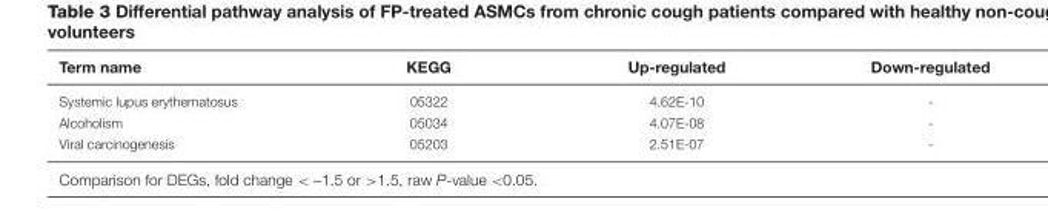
<table><thead><tr><td>Term name</td><td>KEGG</td><td>Up-regulated</td><td>Down-regulated</td></tr></thead><tbody><tr><td>Systemic lupus erythematosus</td><td>05322</td><td>4.62E-10</td><td>-</td></tr><tr><td>Alcoholism</td><td>05034</td><td>4.07E-08</td><td>-</td></tr><tr><td>Viral carcinogenesis</td><td>05203</td><td>2.51E-07</td><td>-</td></tr></tbody></table>